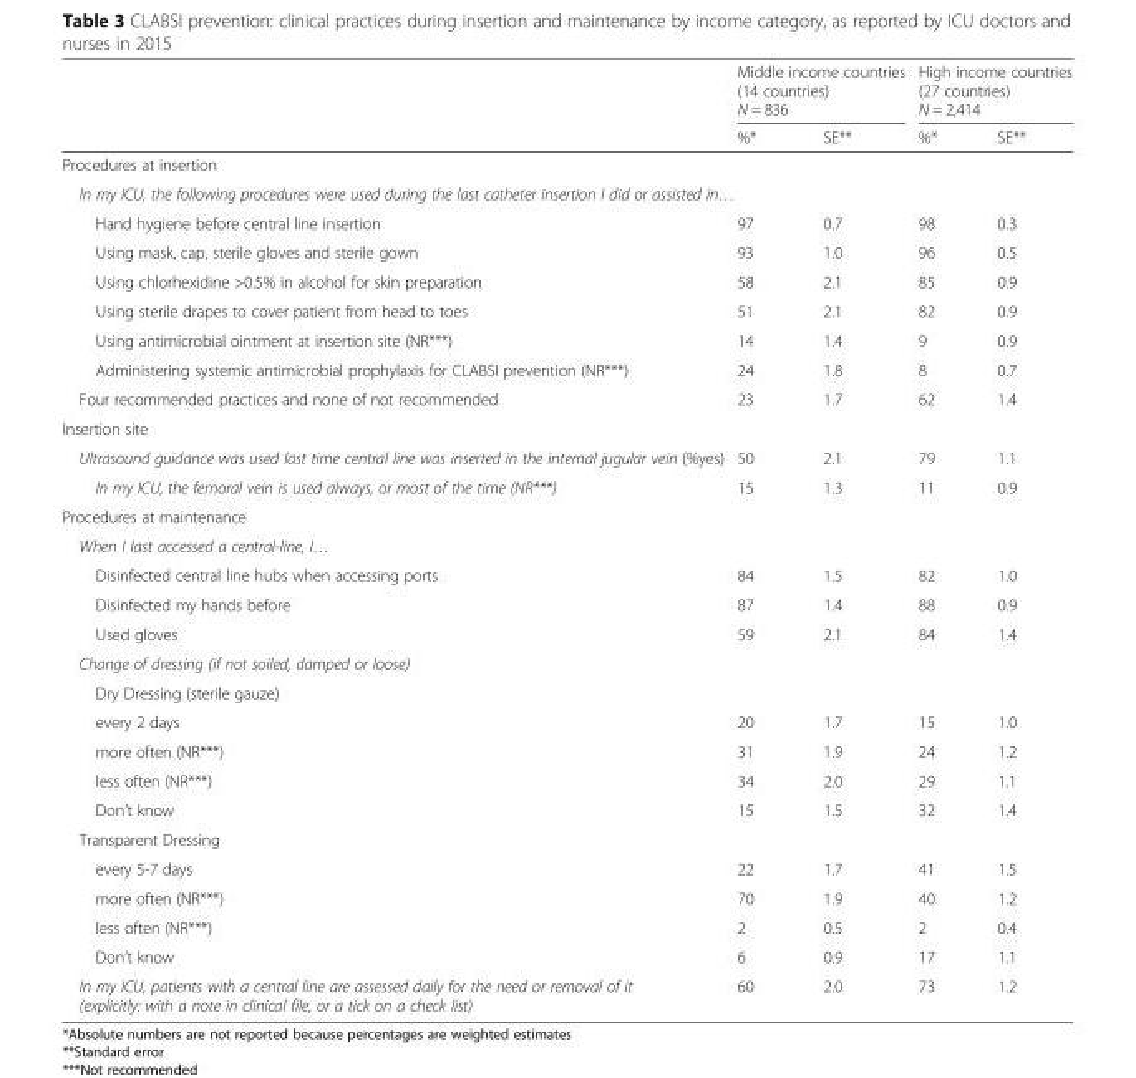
<table><thead><tr><td rowspan="3"></td><td rowspan="2" colspan="2">Middle income countries (14 countries) N = 836</td><td rowspan="2" colspan="2">High income countries (27 countries) N = 2,414</td></tr><tr></tr><tr><td>%*</td><td>SE**</td><td>%*</td><td>SE**</td></tr></thead><tbody><tr><td colspan="5">Procedures at insertion</td></tr><tr><td colspan="5">In my ICU, the following procedures were used during the last catheter insertion I did or assisted in…</td></tr><tr><td>Hand hygiene before central line insertion</td><td>97</td><td>0.7</td><td>98</td><td>0.3</td></tr><tr><td>Using mask, cap, sterile gloves and sterile gown</td><td>93</td><td>1.0</td><td>96</td><td>0.5</td></tr><tr><td>Using chlorhexidine &gt;0.5% in alcohol for skin preparation</td><td>58</td><td>2.1</td><td>85</td><td>0.9</td></tr><tr><td>Using sterile drapes to cover patient from head to toes</td><td>51</td><td>2.1</td><td>82</td><td>0.9</td></tr><tr><td>Using antimicrobial ointment at insertion site (NR***)</td><td>14</td><td>1.4</td><td>9</td><td>0.9</td></tr><tr><td>Administering systemic antimicrobial prophylaxis for CLABSI prevention (NR***)</td><td>24</td><td>1.8</td><td>8</td><td>0.7</td></tr><tr><td>Four recommended practices and none of not recommended</td><td>23</td><td>1.7</td><td>62</td><td>1.4</td></tr><tr><td colspan="5">Insertion site</td></tr><tr><td>Ultrasound guidance was used last time central line was inserted in the internal jugular vein (%yes)</td><td>50</td><td>2.1</td><td>79</td><td>1.1</td></tr><tr><td>In my ICU, the femoral vein is used always, or most of the time (NR***)</td><td>15</td><td>1.3</td><td>11</td><td>0.9</td></tr><tr><td colspan="5">Procedures at maintenance</td></tr><tr><td colspan="5">When I last accessed a central-line, I…</td></tr><tr><td>Disinfected central line hubs when accessing ports</td><td>84</td><td>1.5</td><td>82</td><td>1.0</td></tr><tr><td>Disinfected my hands before</td><td>87</td><td>1.4</td><td>88</td><td>0.9</td></tr><tr><td>Used gloves</td><td>59</td><td>2.1</td><td>84</td><td>1.4</td></tr><tr><td colspan="5">Change of dressing (if not soiled, damped or loose)</td></tr><tr><td colspan="5">Dry Dressing (sterile gauze)</td></tr><tr><td>every 2 days</td><td>20</td><td>1.7</td><td>15</td><td>1.0</td></tr><tr><td>more often (NR***)</td><td>31</td><td>1.9</td><td>24</td><td>1.2</td></tr><tr><td>less often (NR***)</td><td>34</td><td>2.0</td><td>29</td><td>1.1</td></tr><tr><td>Don’t know</td><td>15</td><td>1.5</td><td>32</td><td>1.4</td></tr><tr><td colspan="5">Transparent Dressing</td></tr><tr><td>every 5-7 days</td><td>22</td><td>1.7</td><td>41</td><td>1.5</td></tr><tr><td>more often (NR***)</td><td>70</td><td>1.9</td><td>40</td><td>1.2</td></tr><tr><td>less often (NR***)</td><td>2</td><td>0.5</td><td>2</td><td>0.4</td></tr><tr><td>Don’t know</td><td>6</td><td>0.9</td><td>17</td><td>1.1</td></tr><tr><td>In my ICU, patients with a central line are assessed daily for the need or removal of it (explicitly: with a note in clinical file, or a tick on a check list)</td><td>60</td><td>2.0</td><td>73</td><td>1.2</td></tr></tbody></table>